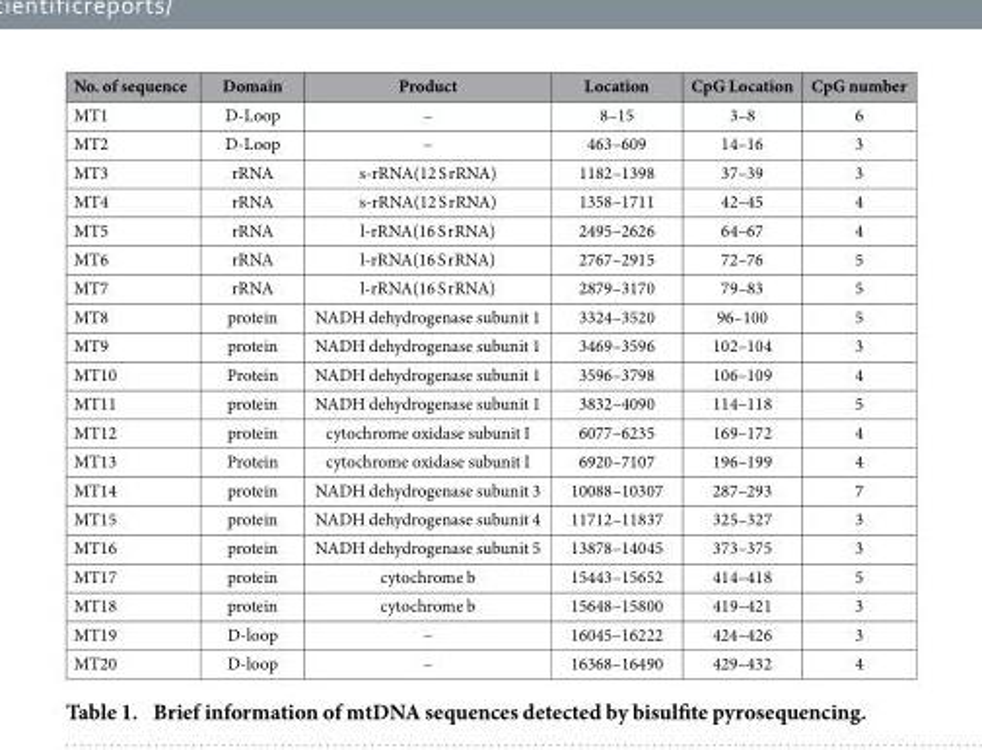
<table><thead><tr><td>No. of sequence</td><td>Domain</td><td>Product</td><td>Location</td><td>CpG Location</td><td>CpG number</td></tr></thead><tbody><tr><td>MT1</td><td>D-Loop</td><td>–</td><td>8–15</td><td>3–8</td><td>6</td></tr><tr><td>MT2</td><td>D-Loop</td><td>–</td><td>463–609</td><td>14–16</td><td>3</td></tr><tr><td>MT3</td><td>rRNA</td><td>s-rRNA(12 S rRNA)</td><td>1182–1398</td><td>37–39</td><td>3</td></tr><tr><td>MT4</td><td>rRNA</td><td>s-rRNA(12 S rRNA)</td><td>1358–1711</td><td>42–45</td><td>4</td></tr><tr><td>MT5</td><td>rRNA</td><td>l-rRNA(16 S rRNA)</td><td>2495–2626</td><td>64–67</td><td>4</td></tr><tr><td>MT6</td><td>rRNA</td><td>l-rRNA(16 S rRNA)</td><td>2767–2915</td><td>72–76</td><td>5</td></tr><tr><td>MT7</td><td>rRNA</td><td>l-rRNA(16 S rRNA)</td><td>2879–3170</td><td>79–83</td><td>5</td></tr><tr><td>MT8</td><td>protein</td><td>NADH dehydrogenase subunit 1</td><td>3324–3520</td><td>96–100</td><td>5</td></tr><tr><td>MT9</td><td>protein</td><td>NADH dehydrogenase subunit 1</td><td>3469–3596</td><td>102–104</td><td>3</td></tr><tr><td>MT10</td><td>Protein</td><td>NADH dehydrogenase subunit 1</td><td>3596–3798</td><td>106–109</td><td>4</td></tr><tr><td>MT11</td><td>protein</td><td>NADH dehydrogenase subunit 1</td><td>3832–4090</td><td>114–118</td><td>5</td></tr><tr><td>MT12</td><td>protein</td><td>cytochrome oxidase subunit I</td><td>6077–6235</td><td>169–172</td><td>4</td></tr><tr><td>MT13</td><td>Protein</td><td>cytochrome oxidase subunit I</td><td>6920–7107</td><td>196–199</td><td>4</td></tr><tr><td>MT14</td><td>protein</td><td>NADH dehydrogenase subunit 3</td><td>10088–10307</td><td>287–293</td><td>7</td></tr><tr><td>MT15</td><td>protein</td><td>NADH dehydrogenase subunit 4</td><td>11712–11837</td><td>325–327</td><td>3</td></tr><tr><td>MT16</td><td>protein</td><td>NADH dehydrogenase subunit 5</td><td>13878–14045</td><td>373–375</td><td>3</td></tr><tr><td>MT17</td><td>protein</td><td>cytochrome b</td><td>15443–15652</td><td>414–418</td><td>5</td></tr><tr><td>MT18</td><td>protein</td><td>cytochrome b</td><td>15648–15800</td><td>419–421</td><td>3</td></tr><tr><td>MT19</td><td>D-loop</td><td>–</td><td>16045–16222</td><td>424–426</td><td>3</td></tr><tr><td>MT20</td><td>D-loop</td><td>–</td><td>16368–16490</td><td>429–432</td><td>4</td></tr></tbody></table>